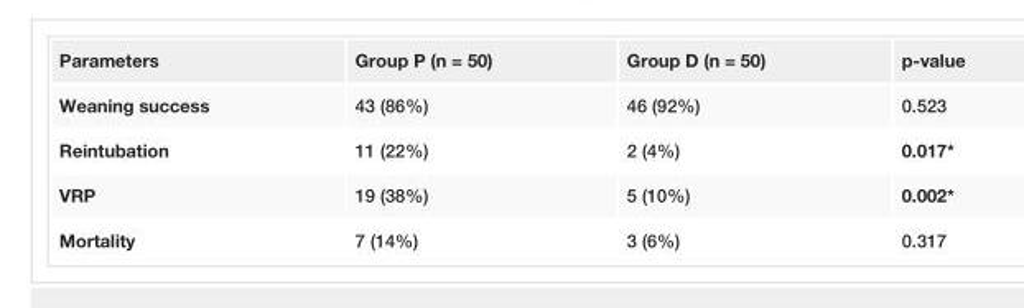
<table><tbody><tr><td>Parameters</td><td>Group P (n = 50)</td><td>Group D (n = 50)</td><td>p-value</td></tr><tr><td>Weaning success</td><td>43 (86%)</td><td>46 (92%)</td><td>0.523</td></tr><tr><td>Reintubation</td><td>11 (22%)</td><td>2 (4%)</td><td>0.017*</td></tr><tr><td>VRP</td><td>19 (38%)</td><td>5 (10%)</td><td>0.002*</td></tr><tr><td>Mortality</td><td>7 (14%)</td><td>3 (6%)</td><td>0.317</td></tr></tbody></table>